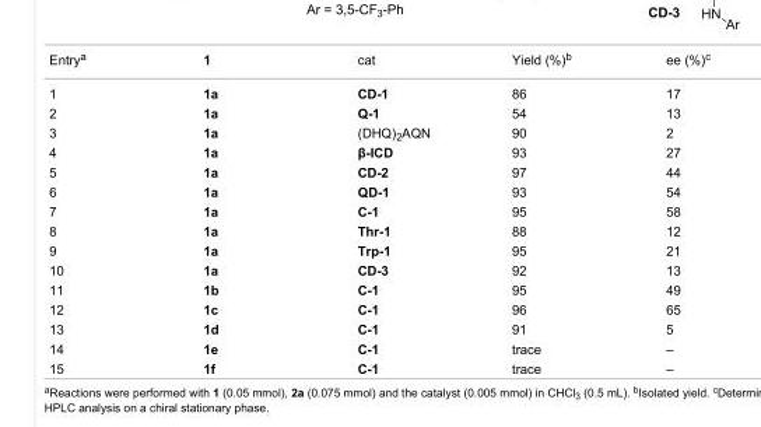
<table><tbody><tr><td>Entry<sup>a</sup></td><td>1</td><td>cat</td><td>Yield (%)<sup>b</sup></td><td>ee (%)<sup>c</sup></td></tr><tr><td>1</td><td>1a</td><td>CD-1</td><td>86</td><td>17</td></tr><tr><td>2</td><td>1a</td><td>Q-1</td><td>54</td><td>13</td></tr><tr><td>3</td><td>1a</td><td>(DHQ)<sub>2</sub>AQN</td><td>90</td><td>2</td></tr><tr><td>4</td><td>1a</td><td>β-ICD</td><td>93</td><td>27</td></tr><tr><td>5</td><td>1a</td><td>CD-2</td><td>97</td><td>44</td></tr><tr><td>6</td><td>1a</td><td>QD-1</td><td>93</td><td>54</td></tr><tr><td>7</td><td>1a</td><td>C-1</td><td>95</td><td>58</td></tr><tr><td>8</td><td>1a</td><td>Thr-1</td><td>88</td><td>12</td></tr><tr><td>9</td><td>1a</td><td>Trp-1</td><td>95</td><td>21</td></tr><tr><td>10</td><td>1a</td><td>CD-3</td><td>92</td><td>13</td></tr><tr><td>11</td><td>1b</td><td>C-1</td><td>95</td><td>49</td></tr><tr><td>12</td><td>1c</td><td>C-1</td><td>96</td><td>65</td></tr><tr><td>13</td><td>1d</td><td>C-1</td><td>91</td><td>5</td></tr><tr><td>14</td><td>1e</td><td>C-1</td><td>trace</td><td>–</td></tr><tr><td>15</td><td>1f</td><td>C-1</td><td>trace</td><td>–</td></tr></tbody></table>